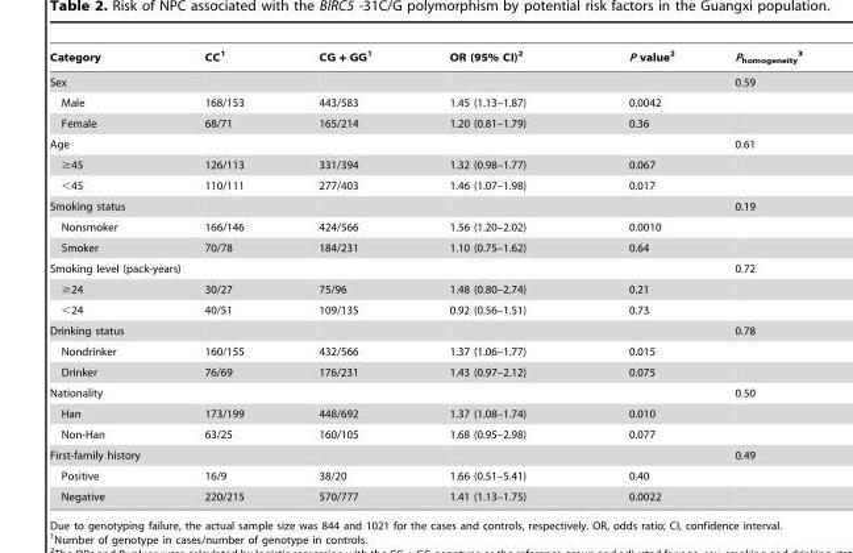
<table><thead><tr><td>Category</td><td>CC<sup>1</sup></td><td>CG + GG<sup>1</sup></td><td>OR (95% CI)<sup>2</sup></td><td>P value<sup>2</sup></td><td>P<sub>homogeneity</sub> 3</td></tr></thead><tbody><tr><td>Sex</td><td></td><td></td><td></td><td></td><td>0.59</td></tr><tr><td>Male</td><td>168/153</td><td>443/583</td><td>1.45 (1.13–1.87)</td><td>0.0042</td><td></td></tr><tr><td>Female</td><td>68/71</td><td>165/214</td><td>1.20 (0.81–1.79)</td><td>0.36</td><td></td></tr><tr><td>Age</td><td></td><td></td><td></td><td></td><td>0.61</td></tr><tr><td>≥45</td><td>126/113</td><td>331/394</td><td>1.32 (0.98–1.77)</td><td>0.067</td><td></td></tr><tr><td>&lt;45</td><td>110/111</td><td>277/403</td><td>1.46 (1.07–1.98)</td><td>0.017</td><td></td></tr><tr><td>Smoking status</td><td></td><td></td><td></td><td></td><td>0.19</td></tr><tr><td>Nonsmoker</td><td>166/146</td><td>424/566</td><td>1.56 (1.20–2.02)</td><td>0.0010</td><td></td></tr><tr><td>Smoker</td><td>70/78</td><td>184/231</td><td>1.10 (0.75–1.62)</td><td>0.64</td><td></td></tr><tr><td>Smoking level (pack-years)</td><td></td><td></td><td></td><td></td><td>0.72</td></tr><tr><td>≥24</td><td>30/27</td><td>75/96</td><td>1.48 (0.80–2.74)</td><td>0.21</td><td></td></tr><tr><td>&lt;24</td><td>40/51</td><td>109/135</td><td>0.92 (0.56–1.51)</td><td>0.73</td><td></td></tr><tr><td>Drinking status</td><td></td><td></td><td></td><td></td><td>0.78</td></tr><tr><td>Nondrinker</td><td>160/155</td><td>432/566</td><td>1.37 (1.06–1.77)</td><td>0.015</td><td></td></tr><tr><td>Drinker</td><td>76/69</td><td>176/231</td><td>1.43 (0.97–2.12)</td><td>0.075</td><td></td></tr><tr><td>Nationality</td><td></td><td></td><td></td><td></td><td>0.50</td></tr><tr><td>Han</td><td>173/199</td><td>448/692</td><td>1.37 (1.08–1.74)</td><td>0.010</td><td></td></tr><tr><td>Non-Han</td><td>63/25</td><td>160/105</td><td>1.68 (0.95–2.98)</td><td>0.077</td><td></td></tr><tr><td colspan="2">First-family history</td><td></td><td></td><td></td><td>0.49</td></tr><tr><td>Positive</td><td>16/9</td><td>38/20</td><td>1.66 (0.51–5.41)</td><td>0.40</td><td></td></tr><tr><td>Negative</td><td>220/215</td><td>570/777</td><td>1.41 (1.13–1.75)</td><td>0.0022</td><td></td></tr></tbody></table>